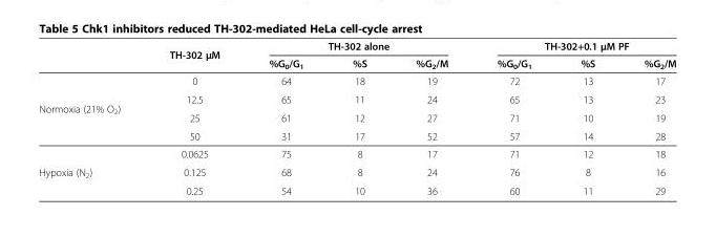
<table><thead><tr><td rowspan="2"></td><td rowspan="2">TH-302 μM</td><td colspan="3">TH-302 alone</td><td colspan="3">TH-302+0.1 μM PF</td></tr><tr><td>%G<sub>0</sub>/G<sub>1</sub></td><td>%S</td><td>%G<sub>2</sub>/M</td><td>%G<sub>0</sub>/G<sub>1</sub></td><td>%S</td><td>%G<sub>2</sub>/M</td></tr></thead><tbody><tr><td rowspan="4">Normoxia (21% O<sub>2</sub>)</td><td>0</td><td>64</td><td>18</td><td>19</td><td>72</td><td>13</td><td>17</td></tr><tr><td>12.5</td><td>65</td><td>11</td><td>24</td><td>65</td><td>13</td><td>23</td></tr><tr><td>25</td><td>61</td><td>12</td><td>27</td><td>71</td><td>10</td><td>19</td></tr><tr><td>50</td><td>31</td><td>17</td><td>52</td><td>57</td><td>14</td><td>28</td></tr><tr><td rowspan="3">Hypoxia (N<sub>2</sub>)</td><td>0.0625</td><td>75</td><td>8</td><td>17</td><td>71</td><td>12</td><td>18</td></tr><tr><td>0.125</td><td>68</td><td>8</td><td>24</td><td>76</td><td>8</td><td>16</td></tr><tr><td>0.25</td><td>54</td><td>10</td><td>36</td><td>60</td><td>11</td><td>29</td></tr></tbody></table>